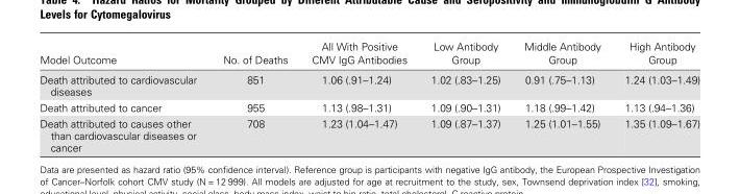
<table><thead><tr><td>Model Outcome</td><td>No. of Deaths</td><td>All With Positive CMV IgG Antibodies</td><td>Low Antibody Group</td><td>Middle Antibody Group</td><td>High Antibody Group</td></tr></thead><tbody><tr><td>Death attributed to cardiovascular diseases</td><td>851</td><td>1.06 (.91–1.24)</td><td>1.02 (.83–1.25)</td><td>0.91 (.75–1.13)</td><td>1.24 (1.03–1.49)</td></tr><tr><td>Death attributed to cancer</td><td>955</td><td>1.13 (.98–1.31)</td><td>1.09 (.90–1.31)</td><td>1.18 (.99–1.42)</td><td>1.13 (.94–1.36)</td></tr><tr><td>Death attributed to causes other than cardiovascular diseases or cancer</td><td>708</td><td>1.23 (1.04–1.47)</td><td>1.09 (.87–1.37)</td><td>1.25 (1.01–1.55)</td><td>1.35 (1.09–1.67)</td></tr></tbody></table>